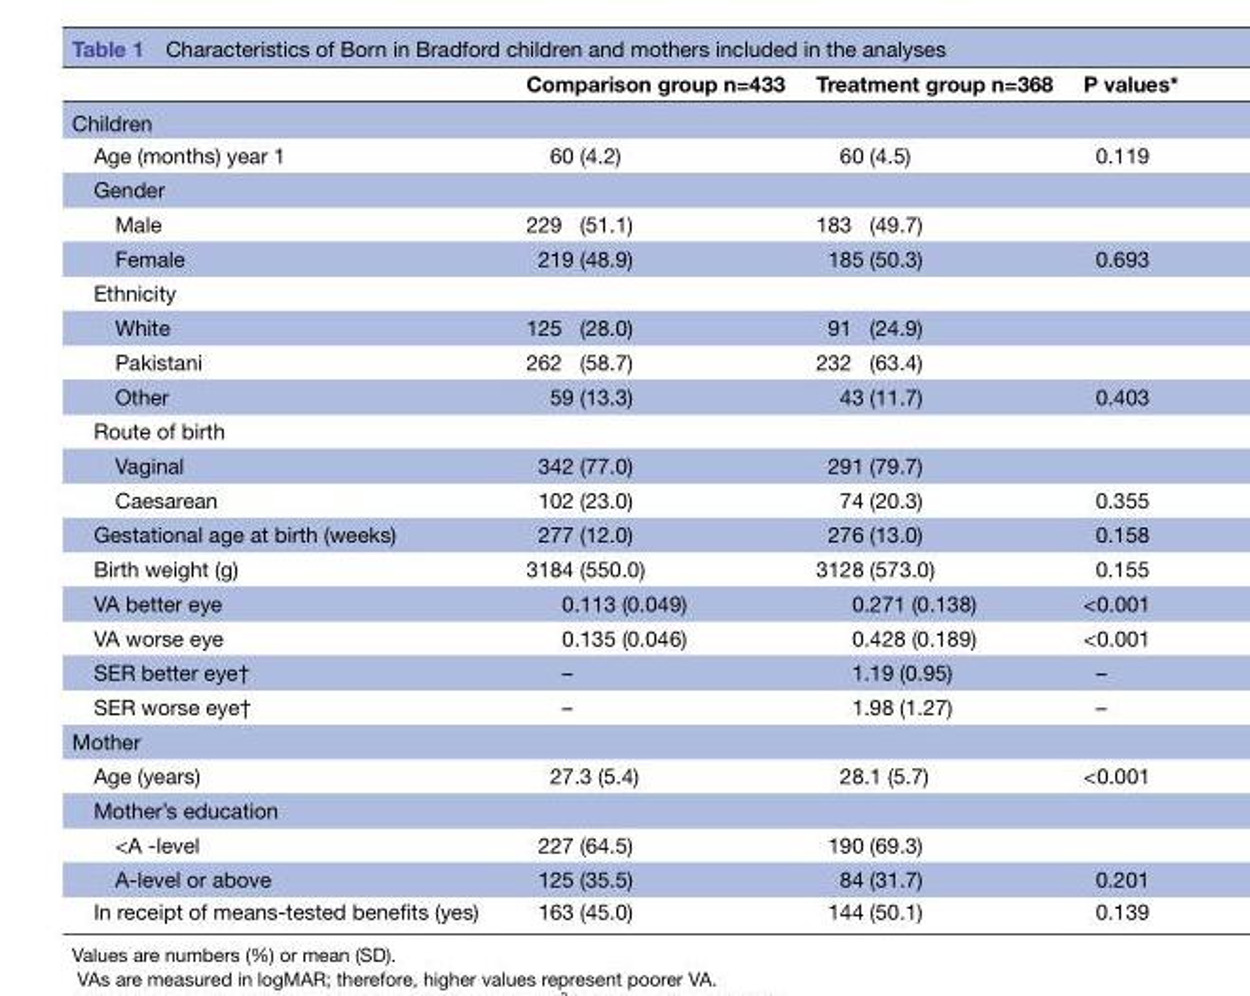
<table><thead><tr><td></td><td>Comparison group n=433</td><td>Treatment group n=368</td><td>P values*</td></tr></thead><tbody><tr><td colspan="4">Children</td></tr><tr><td>Age (months) year 1</td><td>60 (4.2)</td><td>60 (4.5)</td><td>0.119</td></tr><tr><td colspan="4">Gender</td></tr><tr><td>Male</td><td>229 (51.1)</td><td>183 (49.7)</td><td></td></tr><tr><td>Female</td><td>219 (48.9)</td><td>185 (50.3)</td><td>0.693</td></tr><tr><td colspan="4">Ethnicity</td></tr><tr><td>White</td><td>125 (28.0)</td><td>91 (24.9)</td><td></td></tr><tr><td>Pakistani</td><td>262 (58.7)</td><td>232 (63.4)</td><td></td></tr><tr><td>Other</td><td>59 (13.3)</td><td>43 (11.7)</td><td>0.403</td></tr><tr><td colspan="4">Route of birth</td></tr><tr><td>Vaginal</td><td>342 (77.0)</td><td>291 (79.7)</td><td></td></tr><tr><td>Caesarean</td><td>102 (23.0)</td><td>74 (20.3)</td><td>0.355</td></tr><tr><td>Gestational age at birth (weeks)</td><td>277 (12.0)</td><td>276 (13.0)</td><td>0.158</td></tr><tr><td>Birth weight (g)</td><td>3184 (550.0)</td><td>3128 (573.0)</td><td>0.155</td></tr><tr><td>VA better eye</td><td>0.113 (0.049)</td><td>0.271 (0.138)</td><td>&lt;0.001</td></tr><tr><td>VA worse eye</td><td>0.135 (0.046)</td><td>0.428 (0.189)</td><td>&lt;0.001</td></tr><tr><td>SER better eye†</td><td>–</td><td>1.19 (0.95)</td><td>–</td></tr><tr><td>SER worse eye†</td><td>–</td><td>1.98 (1.27)</td><td>–</td></tr><tr><td colspan="4">Mother</td></tr><tr><td>Age (years)</td><td>27.3 (5.4)</td><td>28.1 (5.7)</td><td>&lt;0.001</td></tr><tr><td colspan="4">Mother’s education</td></tr><tr><td>&lt;A -level</td><td>227 (64.5)</td><td>190 (69.3)</td><td></td></tr><tr><td>A-level or above</td><td>125 (35.5)</td><td>84 (31.7)</td><td>0.201</td></tr><tr><td>In receipt of means-tested benefits (yes)</td><td>163 (45.0)</td><td>144 (50.1)</td><td>0.139</td></tr></tbody></table>